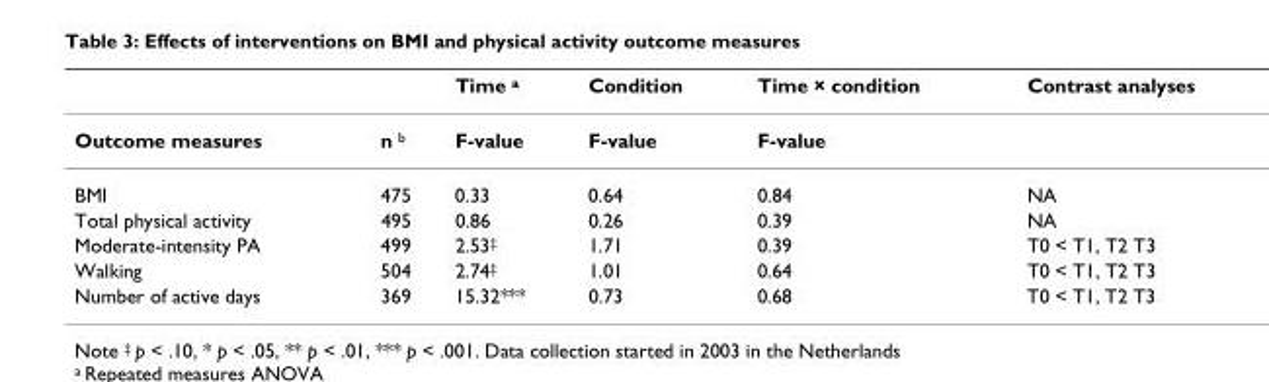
<table><thead><tr><td></td><td></td><td>Time <sup>a</sup></td><td>Condition</td><td>Time × condition</td><td>Contrast analyses</td></tr></thead><tbody><tr><td>Outcome measures</td><td>n <sup>b</sup></td><td>F-value</td><td>F-value</td><td>F-value</td><td></td></tr><tr><td>BMI</td><td>475</td><td>0.33</td><td>0.64</td><td>0.84</td><td>NA</td></tr><tr><td>Total physical activity</td><td>495</td><td>0.86</td><td>0.26</td><td>0.39</td><td>NA</td></tr><tr><td>Moderate-intensity PA</td><td>499</td><td>2.53<sup>‡</sup></td><td>1.71</td><td>0.39</td><td>T0 &lt; T1, T2 T3</td></tr><tr><td>Walking</td><td>504</td><td>2.74<sup>‡</sup></td><td>1.01</td><td>0.64</td><td>T0 &lt; T1, T2 T3</td></tr><tr><td>Number of active days</td><td>369</td><td>15.32***</td><td>0.73</td><td>0.68</td><td>T0 &lt; T1, T2 T3</td></tr></tbody></table>